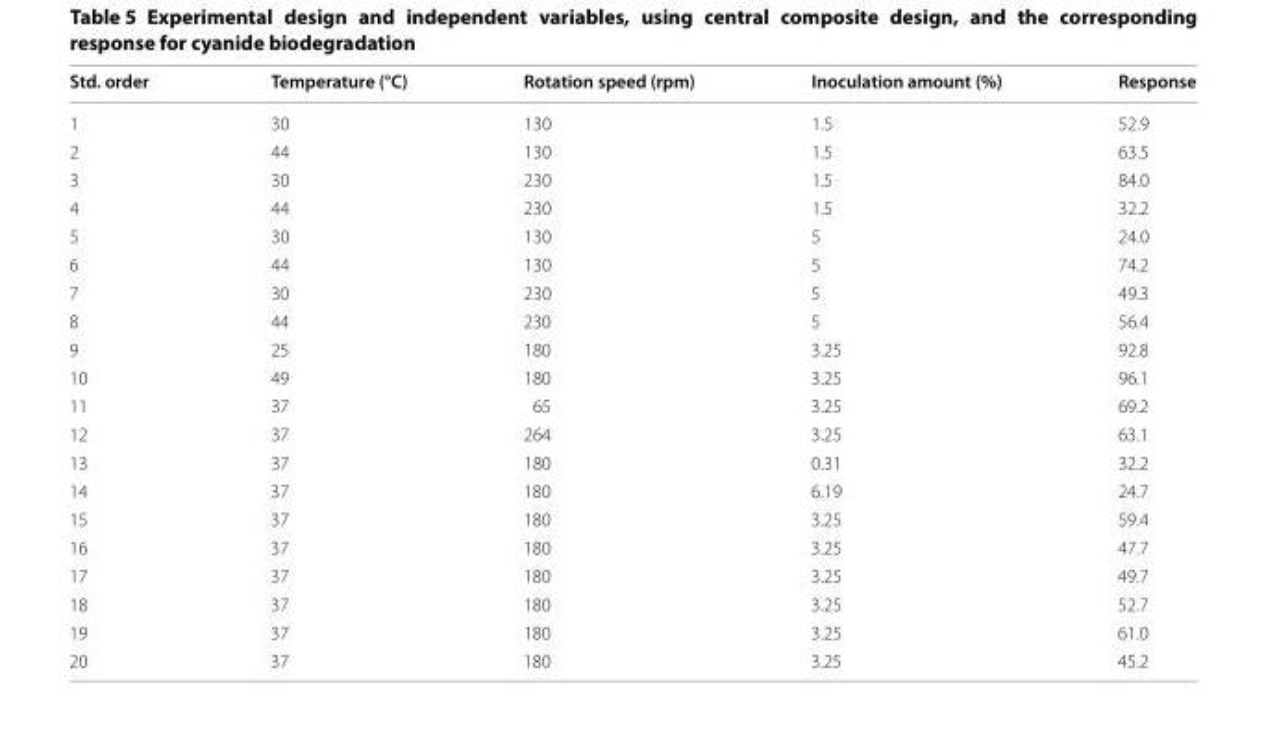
<table><thead><tr><td>Std. order</td><td>Temperature (°C)</td><td>Rotation speed (rpm)</td><td>Inoculation amount (%)</td><td>Response</td></tr></thead><tbody><tr><td>1</td><td>30</td><td>130</td><td>1.5</td><td>52.9</td></tr><tr><td>2</td><td>44</td><td>130</td><td>1.5</td><td>63.5</td></tr><tr><td>3</td><td>30</td><td>230</td><td>1.5</td><td>84.0</td></tr><tr><td>4</td><td>44</td><td>230</td><td>1.5</td><td>32.2</td></tr><tr><td>5</td><td>30</td><td>130</td><td>5</td><td>24.0</td></tr><tr><td>6</td><td>44</td><td>130</td><td>5</td><td>74.2</td></tr><tr><td>7</td><td>30</td><td>230</td><td>5</td><td>49.3</td></tr><tr><td>8</td><td>44</td><td>230</td><td>5</td><td>56.4</td></tr><tr><td>9</td><td>25</td><td>180</td><td>3.25</td><td>92.8</td></tr><tr><td>10</td><td>49</td><td>180</td><td>3.25</td><td>96.1</td></tr><tr><td>11</td><td>37</td><td>65</td><td>3.25</td><td>69.2</td></tr><tr><td>12</td><td>37</td><td>264</td><td>3.25</td><td>63.1</td></tr><tr><td>13</td><td>37</td><td>180</td><td>0.31</td><td>32.2</td></tr><tr><td>14</td><td>37</td><td>180</td><td>6.19</td><td>24.7</td></tr><tr><td>15</td><td>37</td><td>180</td><td>3.25</td><td>59.4</td></tr><tr><td>16</td><td>37</td><td>180</td><td>3.25</td><td>47.7</td></tr><tr><td>17</td><td>37</td><td>180</td><td>3.25</td><td>49.7</td></tr><tr><td>18</td><td>37</td><td>180</td><td>3.25</td><td>52.7</td></tr><tr><td>19</td><td>37</td><td>180</td><td>3.25</td><td>61.0</td></tr><tr><td>20</td><td>37</td><td>180</td><td>3.25</td><td>45.2</td></tr></tbody></table>